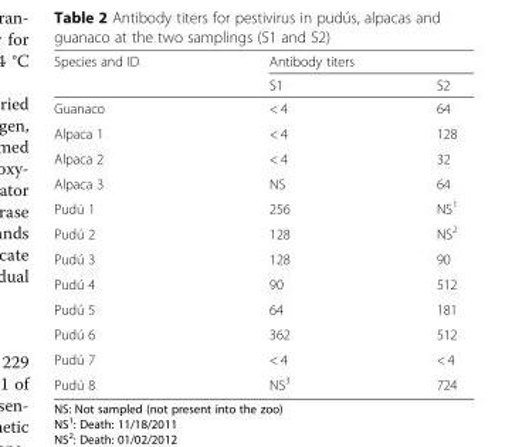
<table><thead><tr><td rowspan="2">Species and ID</td><td colspan="2">Antibody titers</td></tr><tr><td>S1</td><td>S2</td></tr></thead><tbody><tr><td>Guanaco</td><td>&lt; 4</td><td>64</td></tr><tr><td>Alpaca 1</td><td>&lt; 4</td><td>128</td></tr><tr><td>Alpaca 2</td><td>&lt; 4</td><td>32</td></tr><tr><td>Alpaca 3</td><td>NS</td><td>64</td></tr><tr><td>Pudú 1</td><td>256</td><td>NS<sup>1</sup></td></tr><tr><td>Pudú 2</td><td>128</td><td>NS<sup>2</sup></td></tr><tr><td>Pudú 3</td><td>128</td><td>90</td></tr><tr><td>Pudú 4</td><td>90</td><td>512</td></tr><tr><td>Pudú 5</td><td>64</td><td>181</td></tr><tr><td>Pudú 6</td><td>362</td><td>512</td></tr><tr><td>Pudú 7</td><td>&lt; 4</td><td>&lt; 4</td></tr><tr><td>Pudú 8</td><td>NS<sup>3</sup></td><td>724</td></tr></tbody></table>